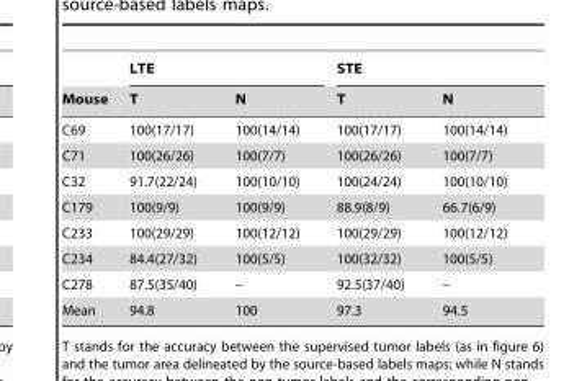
<table><thead><tr><td rowspan="2">Mouse</td><td colspan="2">LTE</td><td colspan="2">STE</td></tr><tr><td>T</td><td>N</td><td>T</td><td>N</td></tr></thead><tbody><tr><td>C69</td><td>100(17/17)</td><td>100(14/14)</td><td>100(17/17)</td><td>100(14/14)</td></tr><tr><td>C71</td><td>100(26/26)</td><td>100(7/7)</td><td>100(26/26)</td><td>100(7/7)</td></tr><tr><td>C32</td><td>91.7(22/24)</td><td>100(10/10)</td><td>100(24/24)</td><td>100(10/10)</td></tr><tr><td>C179</td><td>100(9/9)</td><td>100(9/9)</td><td>88.9(8/9)</td><td>66.7(6/9)</td></tr><tr><td>C233</td><td>100(29/29)</td><td>100(12/12)</td><td>100(29/29)</td><td>100(12/12)</td></tr><tr><td>C234</td><td>84.4(27/32)</td><td>100(5/5)</td><td>100(32/32)</td><td>100(5/5)</td></tr><tr><td>C278</td><td>87.5(35/40)</td><td>–</td><td>92.5(37/40)</td><td>–</td></tr><tr><td>Mean</td><td>94.8</td><td>100</td><td>97.3</td><td>94.5</td></tr></tbody></table>